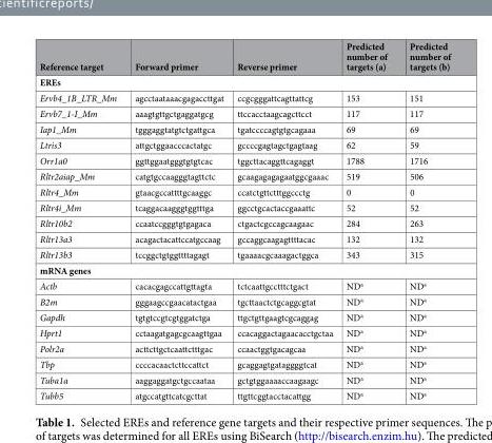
<table><thead><tr><td>Reference target</td><td>Forward primer</td><td>Reverse primer</td><td>Predicted number of targets (a)</td><td>Predicted number of targets (b)</td></tr></thead><tbody><tr><td colspan="5">EREs</td></tr><tr><td>Ervb4_1B_LTR_Mm</td><td>agcctaataaacgagaccttgat</td><td>ccgcgggattcagttattcg</td><td>153</td><td>151</td></tr><tr><td>Ervb7_1-I_Mm</td><td>aaagtgttgctgaggatgcg</td><td>ttccacctaagcagcttcct</td><td>117</td><td>117</td></tr><tr><td>Iap1_Mm</td><td>tgggaggtatgtctgattgca</td><td>tgatccccagtgtgcagaaa</td><td>69</td><td>69</td></tr><tr><td>Ltris3</td><td>attgctggaacccactatgc</td><td>gccccgagtagctgagtaag</td><td>62</td><td>59</td></tr><tr><td>Orr1a0</td><td>ggttggaatgggtgtgtcac</td><td>tggcttacaggttcagaggt</td><td>1788</td><td>1716</td></tr><tr><td>Rltr2aiap_Mm</td><td>catgtgccaagggtagttctc</td><td>gcaagagagagaatggcgaaac</td><td>519</td><td>506</td></tr><tr><td>Rltr4_Mm</td><td>gtaacgccattttgcaaggc</td><td>ccatctgttctttggccctg</td><td>0</td><td>0</td></tr><tr><td>Rltr4i_Mm</td><td>tcaggacaagggtggtttga</td><td>ggcctgcactaccgaaattc</td><td>52</td><td>52</td></tr><tr><td>Rltr10b2</td><td>ccaatccgggtgtgagaca</td><td>ctgactcgccagcaagaac</td><td>284</td><td>263</td></tr><tr><td>Rltr13a3</td><td>acagactacattccatgccaag</td><td>gccaggcaagagttttacac</td><td>132</td><td>132</td></tr><tr><td>Rltr13b3</td><td>tccggctgtggttttagagt</td><td>tgaaaacgcaaagactggca</td><td>343</td><td>315</td></tr><tr><td colspan="5">mRNA genes</td></tr><tr><td>Actb</td><td>cacacgagccattgttagta</td><td>tctcaattgcctttctgact</td><td>ND<sup>a</sup></td><td>ND<sup>a</sup></td></tr><tr><td>B2m</td><td>gggaagccgaacatactgaa</td><td>tgcttaactctgcaggcgtat</td><td>ND<sup>a</sup></td><td>ND<sup>a</sup></td></tr><tr><td>Gapdh</td><td>tgtgtccgtcgtggatctga</td><td>ttgctgttgaagtcgcaggag</td><td>ND<sup>a</sup></td><td>ND<sup>a</sup></td></tr><tr><td>Hprt1</td><td>cctaagatgagcgcaagttgaa</td><td>ccacaggactagaacacctgctaa</td><td>ND<sup>a</sup></td><td>ND<sup>a</sup></td></tr><tr><td>Polr2a</td><td>acttcttgctcaattctttgac</td><td>ccaactggtgacagcaa</td><td>ND<sup>a</sup></td><td>ND<sup>a</sup></td></tr><tr><td>Tbp</td><td>ccccacaactcttccattct</td><td>gcaggagtgataggggtcat</td><td>ND<sup>a</sup></td><td>ND<sup>a</sup></td></tr><tr><td>Tuba1a</td><td>aaggaggatgctgccaataa</td><td>gctgtggaaaaccaagaagc</td><td>ND<sup>a</sup></td><td>ND<sup>a</sup></td></tr><tr><td>Tubb5</td><td>atgccatgttcatcgcttat</td><td>ttgttcggtacctacattgg</td><td>ND<sup>a</sup></td><td>ND<sup>a</sup></td></tr></tbody></table>